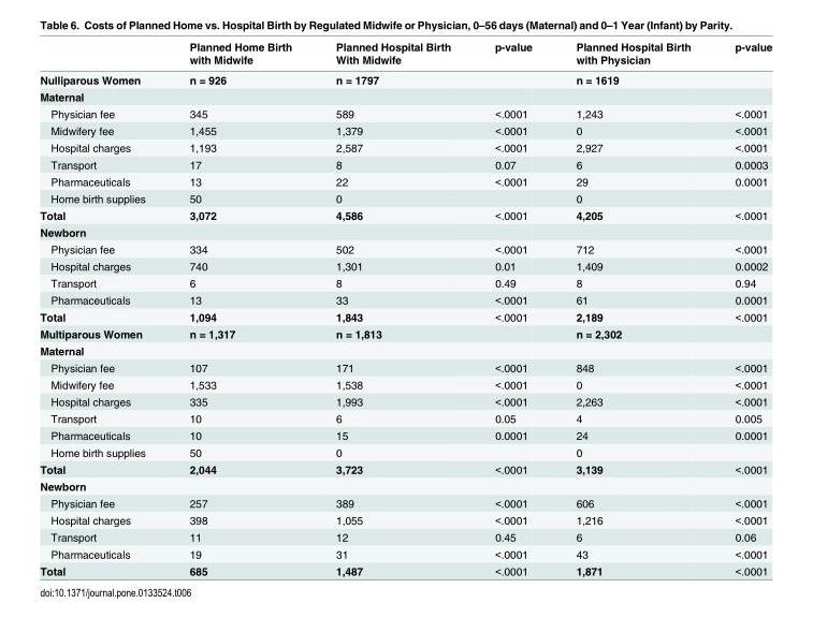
<table><thead><tr><td></td><td>Planned Home Birth with Midwife</td><td>Planned Hospital Birth With Midwife</td><td>p-value</td><td>Planned Hospital Birth with Physician</td><td>p-value</td></tr></thead><tbody><tr><td>Nulliparous Women</td><td>n = 926</td><td>n = 1797</td><td></td><td>n = 1619</td><td></td></tr><tr><td colspan="6">Maternal</td></tr><tr><td>Physician fee</td><td>345</td><td>589</td><td>&lt;.0001</td><td>1,243</td><td>&lt;.0001</td></tr><tr><td>Midwifery fee</td><td>1,455</td><td>1,379</td><td>&lt;.0001</td><td>0</td><td>&lt;.0001</td></tr><tr><td>Hospital charges</td><td>1,193</td><td>2,587</td><td>&lt;.0001</td><td>2,927</td><td>&lt;.0001</td></tr><tr><td>Transport</td><td>17</td><td>8</td><td>0.07</td><td>6</td><td>0.0003</td></tr><tr><td>Pharmaceuticals</td><td>13</td><td>22</td><td>&lt;.0001</td><td>29</td><td>0.0001</td></tr><tr><td>Home birth supplies</td><td>50</td><td>0</td><td></td><td>0</td><td></td></tr><tr><td>Total</td><td>3,072</td><td>4,586</td><td>&lt;.0001</td><td>4,205</td><td>&lt;.0001</td></tr><tr><td colspan="6">Newborn</td></tr><tr><td>Physician fee</td><td>334</td><td>502</td><td>&lt;.0001</td><td>712</td><td>&lt;.0001</td></tr><tr><td>Hospital charges</td><td>740</td><td>1,301</td><td>0.01</td><td>1,409</td><td>0.0002</td></tr><tr><td>Transport</td><td>6</td><td>8</td><td>0.49</td><td>8</td><td>0.94</td></tr><tr><td>Pharmaceuticals</td><td>13</td><td>33</td><td>&lt;.0001</td><td>61</td><td>0.0001</td></tr><tr><td>Total</td><td>1,094</td><td>1,843</td><td>&lt;.0001</td><td>2,189</td><td>&lt;.0001</td></tr><tr><td>Multiparous Women</td><td>n = 1,317</td><td>n = 1,813</td><td></td><td>n = 2,302</td><td></td></tr><tr><td colspan="6">Maternal</td></tr><tr><td>Physician fee</td><td>107</td><td>171</td><td>&lt;.0001</td><td>848</td><td>&lt;.0001</td></tr><tr><td>Midwifery fee</td><td>1,533</td><td>1,538</td><td>&lt;.0001</td><td>0</td><td>&lt;.0001</td></tr><tr><td>Hospital charges</td><td>335</td><td>1,993</td><td>&lt;.0001</td><td>2,263</td><td>&lt;.0001</td></tr><tr><td>Transport</td><td>10</td><td>6</td><td>0.05</td><td>4</td><td>0.005</td></tr><tr><td>Pharmaceuticals</td><td>10</td><td>15</td><td>0.0001</td><td>24</td><td>0.0001</td></tr><tr><td>Home birth supplies</td><td>50</td><td>0</td><td></td><td>0</td><td></td></tr><tr><td>Total</td><td>2,044</td><td>3,723</td><td>&lt;.0001</td><td>3,139</td><td>&lt;.0001</td></tr><tr><td colspan="6">Newborn</td></tr><tr><td>Physician fee</td><td>257</td><td>389</td><td>&lt;.0001</td><td>606</td><td>&lt;.0001</td></tr><tr><td>Hospital charges</td><td>398</td><td>1,055</td><td>&lt;.0001</td><td>1,216</td><td>&lt;.0001</td></tr><tr><td>Transport</td><td>11</td><td>12</td><td>0.45</td><td>6</td><td>0.06</td></tr><tr><td>Pharmaceuticals</td><td>19</td><td>31</td><td>&lt;.0001</td><td>43</td><td>&lt;.0001</td></tr><tr><td>Total</td><td>685</td><td>1,487</td><td>&lt;.0001</td><td>1,871</td><td>&lt;.0001</td></tr></tbody></table>